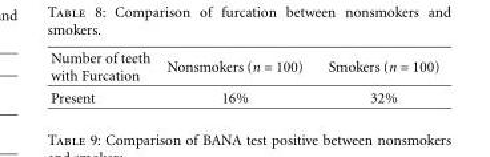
<table><thead><tr><td>Number of teeth with Furcation</td><td>Nonsmokers (n = 100)</td><td>Smokers (n = 100)</td></tr></thead><tbody><tr><td>Present</td><td>16%</td><td>32%</td></tr></tbody></table>